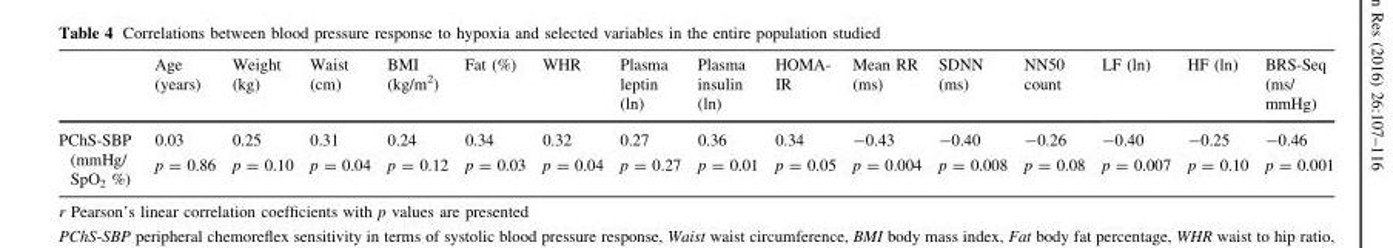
<table><thead><tr><td></td><td>Age (years)</td><td>Weight (kg)</td><td>Waist (cm)</td><td>BMI (kg/m<sup>2</sup>)</td><td>Fat (%)</td><td>WHR</td><td>Plasma leptin (ln)</td><td>Plasma insulin (ln)</td><td>HOMA- IR</td><td>Mean RR (ms)</td><td>SDNN (ms)</td><td>NN50 count</td><td>LF (ln)</td><td>HF (ln)</td><td>BRS-Seq (ms/ mmHg)</td></tr></thead><tbody><tr><td rowspan="2">PChS-SBP (mmHg/ SpO<sub>2</sub> %)</td><td>0.03</td><td>0.25</td><td>0.31</td><td>0.24</td><td>0.34</td><td>0.32</td><td>0.27</td><td>0.36</td><td>0.34</td><td>-0.43</td><td>-0.40</td><td>-0.26</td><td>-0.40</td><td>-0.25</td><td>-0.46</td></tr><tr><td>p = 0.86</td><td>p = 0.10</td><td>p = 0.04</td><td>p = 0.12</td><td>p = 0.03</td><td>p = 0.04</td><td>p = 0.27</td><td>p = 0.01</td><td>p = 0.05</td><td>p = 0.004</td><td>p = 0.008</td><td>p = 0.08</td><td>p = 0.007</td><td>p = 0.10</td><td>p = 0.001</td></tr></tbody></table>